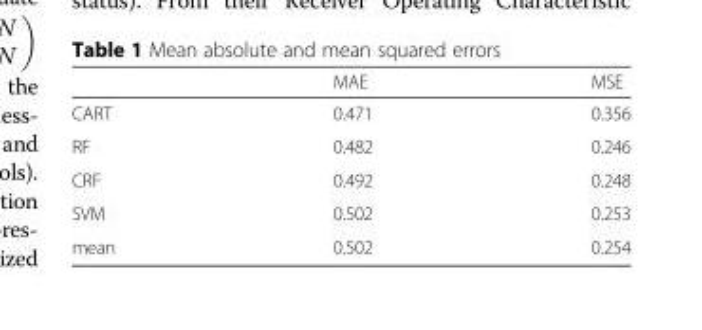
<table><thead><tr><td></td><td>MAE</td><td>MSE</td></tr></thead><tbody><tr><td>CART</td><td>0.471</td><td>0.356</td></tr><tr><td>RF</td><td>0.482</td><td>0.246</td></tr><tr><td>CRF</td><td>0.492</td><td>0.248</td></tr><tr><td>SVM</td><td>0.502</td><td>0.253</td></tr><tr><td>mean</td><td>0.502</td><td>0.254</td></tr></tbody></table>